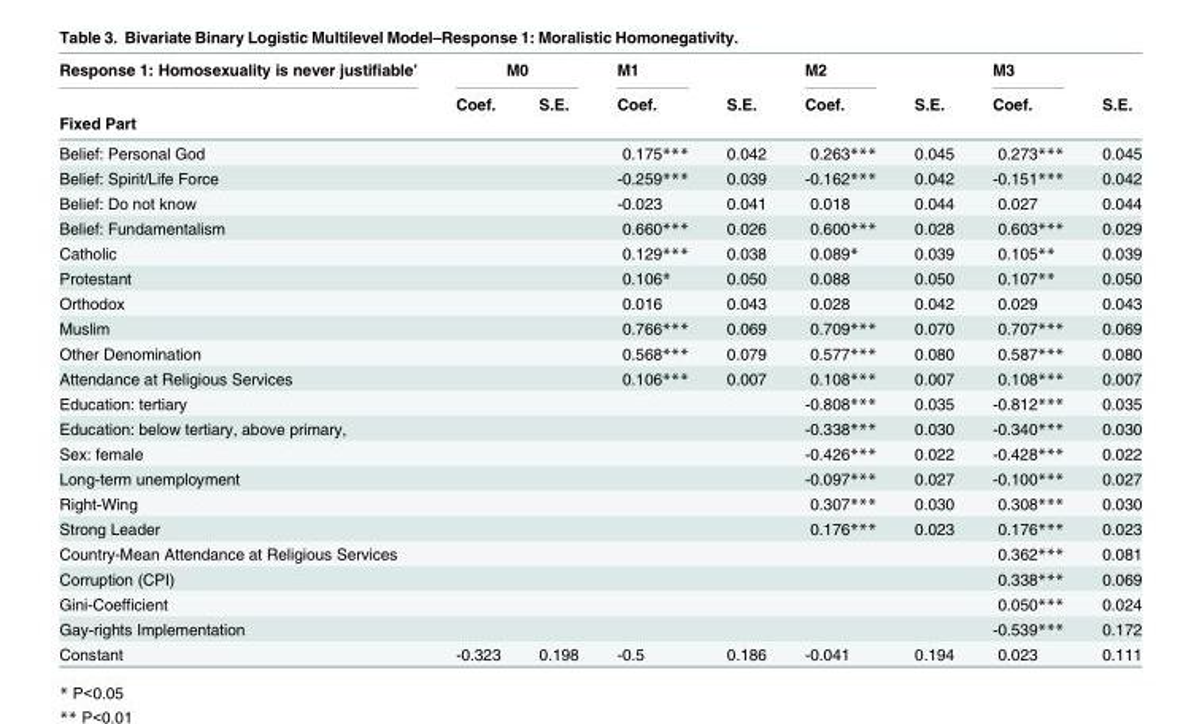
<table><thead><tr><td rowspan="3">Response 1: Homosexuality is never justifiable’ Fixed Part</td><td colspan="2">M0</td><td rowspan="3">M1 Coef.</td><td rowspan="3">S.E.</td><td rowspan="3">M2 Coef.</td><td rowspan="3">S.E.</td><td rowspan="3">M3 Coef.</td><td rowspan="3">S.E.</td></tr><tr><td rowspan="2">Coef.</td><td rowspan="2">S.E.</td></tr><tr></tr></thead><tbody><tr><td>Belief: Personal God</td><td></td><td></td><td>0.175***</td><td>0.042</td><td>0.263***</td><td>0.045</td><td>0.273***</td><td>0.045</td></tr><tr><td>Belief: Spirit/Life Force</td><td></td><td></td><td>-0.259***</td><td>0.039</td><td>-0.162***</td><td>0.042</td><td>-0.151***</td><td>0.042</td></tr><tr><td>Belief: Do not know</td><td></td><td></td><td>-0.023</td><td>0.041</td><td>0.018</td><td>0.044</td><td>0.027</td><td>0.044</td></tr><tr><td>Belief: Fundamentalism</td><td></td><td></td><td>0.660***</td><td>0.026</td><td>0.600***</td><td>0.028</td><td>0.603***</td><td>0.029</td></tr><tr><td>Catholic</td><td></td><td></td><td>0.129***</td><td>0.038</td><td>0.089*</td><td>0.039</td><td>0.105**</td><td>0.039</td></tr><tr><td>Protestant</td><td></td><td></td><td>0.106*</td><td>0.050</td><td>0.088</td><td>0.050</td><td>0.107**</td><td>0.050</td></tr><tr><td>Orthodox</td><td></td><td></td><td>0.016</td><td>0.043</td><td>0.028</td><td>0.042</td><td>0.029</td><td>0.043</td></tr><tr><td>Muslim</td><td></td><td></td><td>0.766***</td><td>0.069</td><td>0.709***</td><td>0.070</td><td>0.707***</td><td>0.069</td></tr><tr><td>Other Denomination</td><td></td><td></td><td>0.568***</td><td>0.079</td><td>0.577***</td><td>0.080</td><td>0.587***</td><td>0.080</td></tr><tr><td>Attendance at Religious Services</td><td></td><td></td><td>0.106***</td><td>0.007</td><td>0.108***</td><td>0.007</td><td>0.108***</td><td>0.007</td></tr><tr><td>Education: tertiary</td><td></td><td></td><td></td><td></td><td>-0.808***</td><td>0.035</td><td>-0.812***</td><td>0.035</td></tr><tr><td>Education: below tertiary, above primary,</td><td></td><td></td><td></td><td></td><td>-0.338***</td><td>0.030</td><td>-0.340***</td><td>0.030</td></tr><tr><td>Sex: female</td><td></td><td></td><td></td><td></td><td>-0.426***</td><td>0.022</td><td>-0.428***</td><td>0.022</td></tr><tr><td>Long-term unemployment</td><td></td><td></td><td></td><td></td><td>-0.097***</td><td>0.027</td><td>-0.100***</td><td>0.027</td></tr><tr><td>Right-Wing</td><td></td><td></td><td></td><td></td><td>0.307***</td><td>0.030</td><td>0.308***</td><td>0.030</td></tr><tr><td>Strong Leader</td><td></td><td></td><td></td><td></td><td>0.176***</td><td>0.023</td><td>0.176***</td><td>0.023</td></tr><tr><td>Country-Mean Attendance at Religious Services</td><td></td><td></td><td></td><td></td><td></td><td></td><td>0.362***</td><td>0.081</td></tr><tr><td>Corruption (CPI)</td><td></td><td></td><td></td><td></td><td></td><td></td><td>0.338***</td><td>0.069</td></tr><tr><td>Gini-Coefficient</td><td></td><td></td><td></td><td></td><td></td><td></td><td>0.050***</td><td>0.024</td></tr><tr><td>Gay-rights Implementation</td><td></td><td></td><td></td><td></td><td></td><td></td><td>-0.539***</td><td>0.172</td></tr><tr><td>Constant</td><td>-0.323</td><td>0.198</td><td>-0.5</td><td>0.186</td><td>-0.041</td><td>0.194</td><td>0.023</td><td>0.111</td></tr></tbody></table>